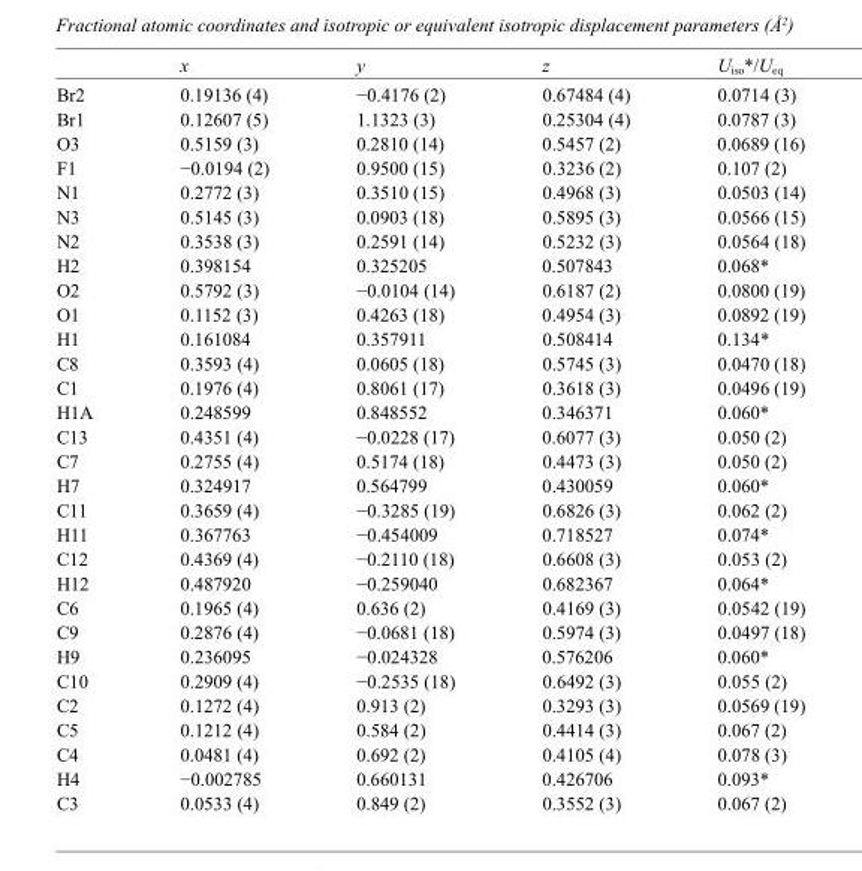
<table><thead><tr><td></td><td>x</td><td>y</td><td>z</td><td>U<sub>iso</sub>*/U<sub>eq</sub></td></tr></thead><tbody><tr><td>Br2</td><td>0.19136 (4)</td><td>−0.4176 (2)</td><td>0.67484 (4)</td><td>0.0714 (3)</td></tr><tr><td>Br1</td><td>0.12607 (5)</td><td>1.1323 (3)</td><td>0.25304 (4)</td><td>0.0787 (3)</td></tr><tr><td>O3</td><td>0.5159 (3)</td><td>0.2810 (14)</td><td>0.5457 (2)</td><td>0.0689 (16)</td></tr><tr><td>F1</td><td>−0.0194 (2)</td><td>0.9500 (15)</td><td>0.3236 (2)</td><td>0.107 (2)</td></tr><tr><td>N1</td><td>0.2772 (3)</td><td>0.3510 (15)</td><td>0.4968 (3)</td><td>0.0503 (14)</td></tr><tr><td>N3</td><td>0.5145 (3)</td><td>0.0903 (18)</td><td>0.5895 (3)</td><td>0.0566 (15)</td></tr><tr><td>N2</td><td>0.3538 (3)</td><td>0.2591 (14)</td><td>0.5232 (3)</td><td>0.0564 (18)</td></tr><tr><td>H2</td><td>0.398154</td><td>0.325205</td><td>0.507843</td><td>0.068*</td></tr><tr><td>O2</td><td>0.5792 (3)</td><td>−0.0104 (14)</td><td>0.6187 (2)</td><td>0.0800 (19)</td></tr><tr><td>O1</td><td>0.1152 (3)</td><td>0.4263 (18)</td><td>0.4954 (3)</td><td>0.0892 (19)</td></tr><tr><td>H1</td><td>0.161084</td><td>0.357911</td><td>0.508414</td><td>0.134*</td></tr><tr><td>C8</td><td>0.3593 (4)</td><td>0.0605 (18)</td><td>0.5745 (3)</td><td>0.0470 (18)</td></tr><tr><td>C1</td><td>0.1976 (4)</td><td>0.8061 (17)</td><td>0.3618 (3)</td><td>0.0496 (19)</td></tr><tr><td>H1A</td><td>0.248599</td><td>0.848552</td><td>0.346371</td><td>0.060*</td></tr><tr><td>C13</td><td>0.4351 (4)</td><td>−0.0228 (17)</td><td>0.6077 (3)</td><td>0.050 (2)</td></tr><tr><td>C7</td><td>0.2755 (4)</td><td>0.5174 (18)</td><td>0.4473 (3)</td><td>0.050 (2)</td></tr><tr><td>H7</td><td>0.324917</td><td>0.564799</td><td>0.430059</td><td>0.060*</td></tr><tr><td>C11</td><td>0.3659 (4)</td><td>−0.3285 (19)</td><td>0.6826 (3)</td><td>0.062 (2)</td></tr><tr><td>H11</td><td>0.367763</td><td>−0.454009</td><td>0.718527</td><td>0.074*</td></tr><tr><td>C12</td><td>0.4369 (4)</td><td>−0.2110 (18)</td><td>0.6608 (3)</td><td>0.053 (2)</td></tr><tr><td>H12</td><td>0.487920</td><td>−0.259040</td><td>0.682367</td><td>0.064*</td></tr><tr><td>C6</td><td>0.1965 (4)</td><td>0.636 (2)</td><td>0.4169 (3)</td><td>0.0542 (19)</td></tr><tr><td>C9</td><td>0.2876 (4)</td><td>−0.0681 (18)</td><td>0.5974 (3)</td><td>0.0497 (18)</td></tr><tr><td>H9</td><td>0.236095</td><td>−0.024328</td><td>0.576206</td><td>0.060*</td></tr><tr><td>C10</td><td>0.2909 (4)</td><td>−0.2535 (18)</td><td>0.6492 (3)</td><td>0.055 (2)</td></tr><tr><td>C2</td><td>0.1272 (4)</td><td>0.913 (2)</td><td>0.3293 (3)</td><td>0.0569 (19)</td></tr><tr><td>C5</td><td>0.1212 (4)</td><td>0.584 (2)</td><td>0.4414 (3)</td><td>0.067 (2)</td></tr><tr><td>C4</td><td>0.0481 (4)</td><td>0.692 (2)</td><td>0.4105 (4)</td><td>0.078 (3)</td></tr><tr><td>H4</td><td>−0.002785</td><td>0.660131</td><td>0.426706</td><td>0.093*</td></tr><tr><td>C3</td><td>0.0533 (4)</td><td>0.849 (2)</td><td>0.3552 (3)</td><td>0.067 (2)</td></tr></tbody></table>